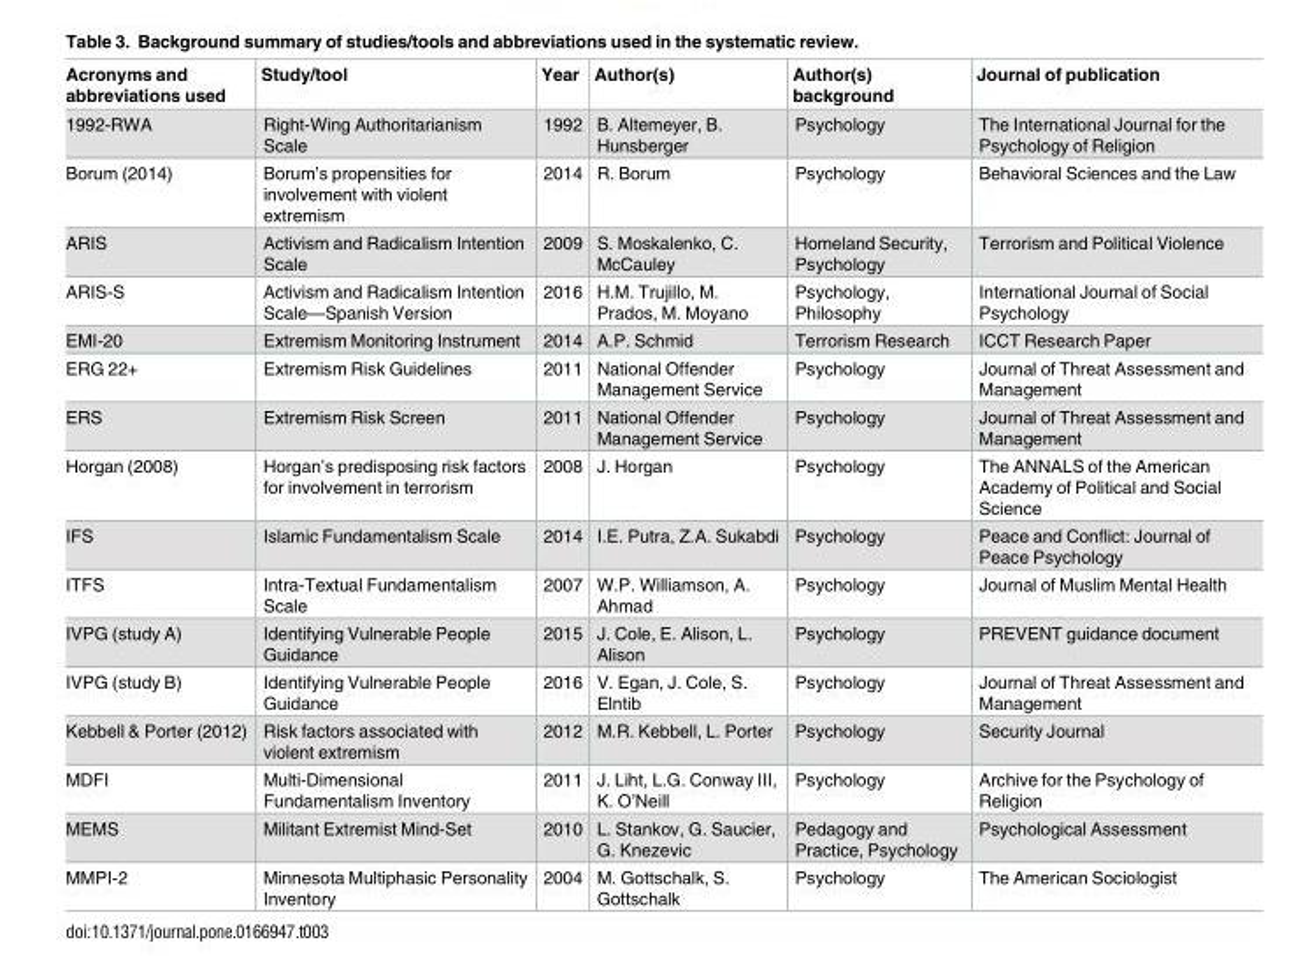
<table><thead><tr><td>Acronyms and abbreviations used</td><td>Study/tool</td><td>Year</td><td>Author(s)</td><td>Author(s) background</td><td>Journal of publication</td></tr></thead><tbody><tr><td>1992-RWA</td><td>Right-Wing Authoritarianism Scale</td><td>1992</td><td>B. Altemeyer, B. Hunsberger</td><td>Psychology</td><td>The International Journal for the Psychology of Religion</td></tr><tr><td>Borum (2014)</td><td>Borum’s propensities for involvement with violent extremism</td><td>2014</td><td>R. Borum</td><td>Psychology</td><td>Behavioral Sciences and the Law</td></tr><tr><td>ARIS</td><td>Activism and Radicalism Intention Scale</td><td>2009</td><td>S. Moskalenko, C. McCauley</td><td>Homeland Security, Psychology</td><td>Terrorism and Political Violence</td></tr><tr><td>ARIS-S</td><td>Activism and Radicalism Intention Scale—Spanish Version</td><td>2016</td><td>H.M. Trujillo, M. Prados, M. Moyano</td><td>Psychology, Philosophy</td><td>International Journal of Social Psychology</td></tr><tr><td>EMI-20</td><td>Extremism Monitoring Instrument</td><td>2014</td><td>A.P. Schmid</td><td>Terrorism Research</td><td>ICCT Research Paper</td></tr><tr><td>ERG 22+</td><td>Extremism Risk Guidelines</td><td>2011</td><td>National Offender Management Service</td><td>Psychology</td><td>Journal of Threat Assessment and Management</td></tr><tr><td>ERS</td><td>Extremism Risk Screen</td><td>2011</td><td>National Offender Management Service</td><td>Psychology</td><td>Journal of Threat Assessment and Management</td></tr><tr><td>Horgan (2008)</td><td>Horgan’s predisposing risk factors for involvement in terrorism</td><td>2008</td><td>J. Horgan</td><td>Psychology</td><td>The ANNALS of the American Academy of Political and Social Science</td></tr><tr><td>IFS</td><td>Islamic Fundamentalism Scale</td><td>2014</td><td>I.E. Putra, Z.A. Sukabdi</td><td>Psychology</td><td>Peace and Conflict: Journal of Peace Psychology</td></tr><tr><td>ITFS</td><td>Intra-Textual Fundamentalism Scale</td><td>2007</td><td>W.P. Williamson, A. Ahmad</td><td>Psychology</td><td>Journal of Muslim Mental Health</td></tr><tr><td>IVPG (study A)</td><td>Identifying Vulnerable People Guidance</td><td>2015</td><td>J. Cole, E. Alison, L. Alison</td><td>Psychology</td><td>PREVENT guidance document</td></tr><tr><td>IVPG (study B)</td><td>Identifying Vulnerable People Guidance</td><td>2016</td><td>V. Egan, J. Cole, S. Elntib</td><td>Psychology</td><td>Journal of Threat Assessment and Management</td></tr><tr><td>Kebbell &amp; Porter (2012)</td><td>Risk factors associated with violent extremism</td><td>2012</td><td>M.R. Kebbell, L. Porter</td><td>Psychology</td><td>Security Journal</td></tr><tr><td>MDFI</td><td>Multi-Dimensional Fundamentalism Inventory</td><td>2011</td><td>J. Liht, L.G. Conway III, K. O’Neill</td><td>Psychology</td><td>Archive for the Psychology of Religion</td></tr><tr><td>MEMS</td><td>Militant Extremist Mind-Set</td><td>2010</td><td>L. Stankov, G. Saucier, G. Knezevic</td><td>Pedagogy and Practice, Psychology</td><td>Psychological Assessment</td></tr><tr><td>MMPI-2</td><td>Minnesota Multiphasic Personality Inventory</td><td>2004</td><td>M. Gottschalk, S. Gottschalk</td><td>Psychology</td><td>The American Sociologist</td></tr></tbody></table>